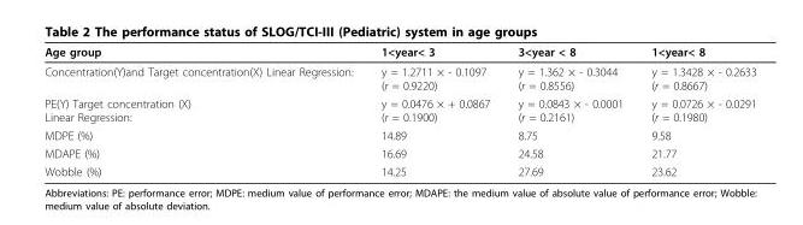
<table><thead><tr><td>Age group</td><td>1&lt;year&lt; 3</td><td>3&lt;year &lt; 8</td><td>1&lt;year&lt; 8</td></tr></thead><tbody><tr><td>Concentration(Y)and Target concentration(X) Linear Regression:</td><td>y = 1.2711 × - 0.1097 (r = 0.9220)</td><td>y = 1.362 × - 0.3044 (r = 0.8556)</td><td>y = 1.3428 × - 0.2633 (r = 0.8667)</td></tr><tr><td>PE(Y) Target concentration (X) Linear Regression:</td><td>y = 0.0476 × + 0.0867 (r = 0.1900)</td><td>y = 0.0843 × - 0.0001 (r = 0.2161)</td><td>y = 0.0726 × - 0.0291 (r = 0.1980)</td></tr><tr><td>MDPE (%)</td><td>14.89</td><td>8.75</td><td>9.58</td></tr><tr><td>MDAPE (%)</td><td>16.69</td><td>24.58</td><td>21.77</td></tr><tr><td>Wobble (%)</td><td>14.25</td><td>27.69</td><td>23.62</td></tr></tbody></table>